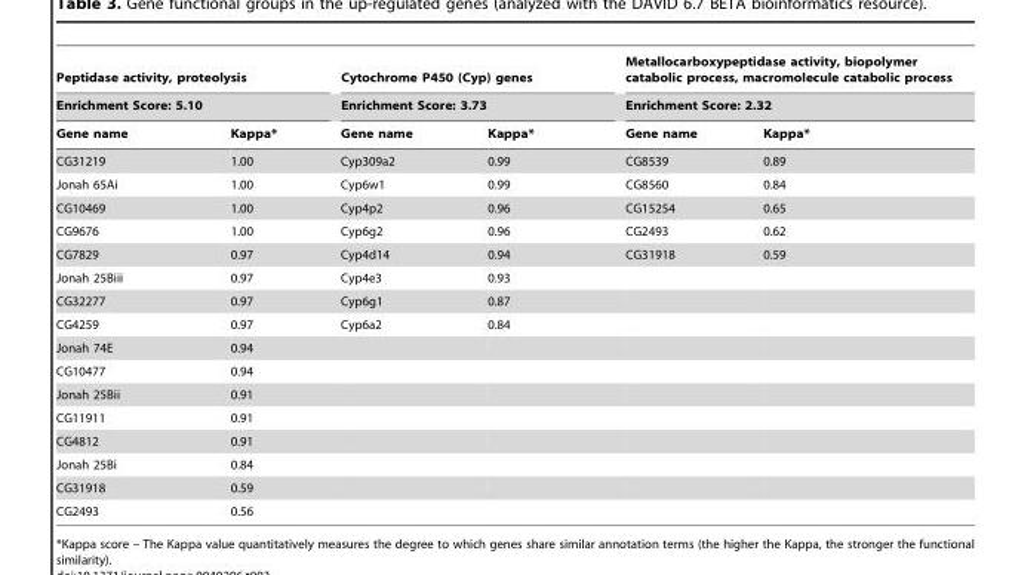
<table><thead><tr><td rowspan="2" colspan="2">Peptidase activity, proteolysis Enrichment Score: 5.10</td><td rowspan="2" colspan="2">Cytochrome P450 (Cyp) genes Enrichment Score: 3.73</td><td rowspan="2" colspan="2">Metallocarboxypeptidase activity, biopolymer catabolic process, macromolecule catabolic process Enrichment Score: 2.32</td></tr><tr></tr><tr><td>Gene name</td><td>Kappa*</td><td>Gene name</td><td>Kappa*</td><td>Gene name</td><td>Kappa*</td></tr></thead><tbody><tr><td>CG31219</td><td>1.00</td><td>Cyp309a2</td><td>0.99</td><td>CG8539</td><td>0.89</td></tr><tr><td>Jonah 65Ai</td><td>1.00</td><td>Cyp6w1</td><td>0.99</td><td>CG8560</td><td>0.84</td></tr><tr><td>CG10469</td><td>1.00</td><td>Cyp4p2</td><td>0.96</td><td>CG15254</td><td>0.65</td></tr><tr><td>CG9676</td><td>1.00</td><td>Cyp6g2</td><td>0.96</td><td>CG2493</td><td>0.62</td></tr><tr><td>CG7829</td><td>0.97</td><td>Cyp4d14</td><td>0.94</td><td>CG31918</td><td>0.59</td></tr><tr><td>Jonah 25Biii</td><td>0.97</td><td>Cyp4e3</td><td>0.93</td><td></td><td></td></tr><tr><td>CG32277</td><td>0.97</td><td>Cyp6g1</td><td>0.87</td><td></td><td></td></tr><tr><td>CG4259</td><td>0.97</td><td>Cyp6a2</td><td>0.84</td><td></td><td></td></tr><tr><td>Jonah 74E</td><td>0.94</td><td></td><td></td><td></td><td></td></tr><tr><td>CG10477</td><td>0.94</td><td></td><td></td><td></td><td></td></tr><tr><td>Jonah 25Bii</td><td>0.91</td><td></td><td></td><td></td><td></td></tr><tr><td>CG11911</td><td>0.91</td><td></td><td></td><td></td><td></td></tr><tr><td>CG4812</td><td>0.91</td><td></td><td></td><td></td><td></td></tr><tr><td>Jonah 25Bi</td><td>0.84</td><td></td><td></td><td></td><td></td></tr><tr><td>CG31918</td><td>0.59</td><td></td><td></td><td></td><td></td></tr><tr><td>CG2493</td><td>0.56</td><td></td><td></td><td></td><td></td></tr></tbody></table>